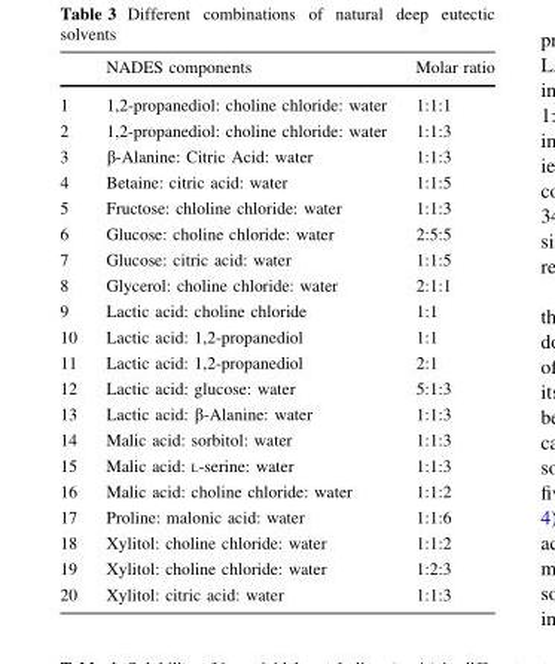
<table><thead><tr><td></td><td>NADES components</td><td>Molar ratio</td></tr></thead><tbody><tr><td>1</td><td>1,2-propanediol: choline chloride: water</td><td>1:1:1</td></tr><tr><td>2</td><td>1,2-propanediol: choline chloride: water</td><td>1:1:3</td></tr><tr><td>3</td><td>β-Alanine: Citric Acid: water</td><td>1:1:3</td></tr><tr><td>4</td><td>Betaine: citric acid: water</td><td>1:1:5</td></tr><tr><td>5</td><td>Fructose: chloline chloride: water</td><td>1:1:3</td></tr><tr><td>6</td><td>Glucose: choline chloride: water</td><td>2:5:5</td></tr><tr><td>7</td><td>Glucose: citric acid: water</td><td>1:1:5</td></tr><tr><td>8</td><td>Glycerol: choline chloride: water</td><td>2:1:1</td></tr><tr><td>9</td><td>Lactic acid: choline chloride</td><td>1:1</td></tr><tr><td>10</td><td>Lactic acid: 1,2-propanediol</td><td>1:1</td></tr><tr><td>11</td><td>Lactic acid: 1,2-propanediol</td><td>2:1</td></tr><tr><td>12</td><td>Lactic acid: glucose: water</td><td>5:1:3</td></tr><tr><td>13</td><td>Lactic acid: β-Alanine: water</td><td>1:1:3</td></tr><tr><td>14</td><td>Malic acid: sorbitol: water</td><td>1:1:3</td></tr><tr><td>15</td><td>Malic acid: L-serine: water</td><td>1:1:3</td></tr><tr><td>16</td><td>Malic acid: choline chloride: water</td><td>1:1:2</td></tr><tr><td>17</td><td>Proline: malonic acid: water</td><td>1:1:6</td></tr><tr><td>18</td><td>Xylitol: choline chloride: water</td><td>1:1:2</td></tr><tr><td>19</td><td>Xylitol: choline chloride: water</td><td>1:2:3</td></tr><tr><td>20</td><td>Xylitol: citric acid: water</td><td>1:1:3</td></tr></tbody></table>